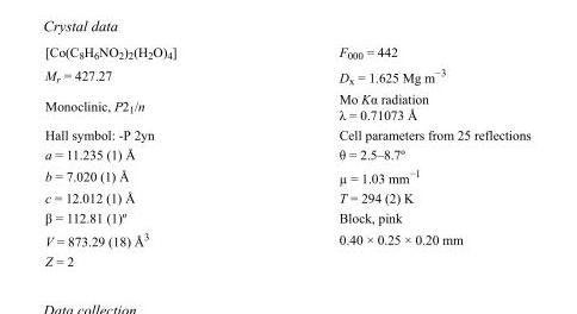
<table><tbody><tr><td>[Co(C<sub>8</sub>H<sub>6</sub>NO<sub>2</sub>)<sub>2</sub>(H<sub>2</sub>O)<sub>4</sub>]</td><td>F<sub>000</sub> = 442</td></tr><tr><td>M<sub>r</sub> = 427.27</td><td>D<sub>x</sub> = 1.625 Mg m<sup>−3</sup></td></tr><tr><td>Monoclinic, P2<sub>1</sub>/n</td><td>Mo Kα radiation λ = 0.71073 Å</td></tr><tr><td>Hall symbol: -P 2yn</td><td>Cell parameters from 25 reflections</td></tr><tr><td>a = 11.235 (1) Å</td><td>θ = 2.5–8.7º</td></tr><tr><td>b = 7.020 (1) Å</td><td>µ = 1.03 mm<sup>−1</sup></td></tr><tr><td>c = 12.012 (1) Å</td><td>T = 294 (2) K</td></tr><tr><td>β = 112.81 (1)º</td><td>Block, pink</td></tr><tr><td>V = 873.29 (18) Å<sup>3</sup></td><td>0.40 × 0.25 × 0.20 mm</td></tr><tr><td>Z = 2</td><td></td></tr></tbody></table>